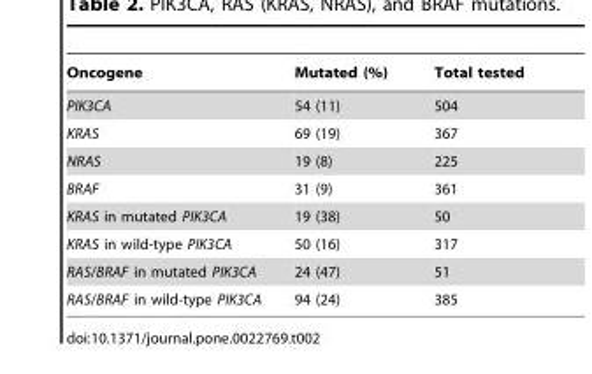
<table><thead><tr><td>Oncogene</td><td>Mutated (%)</td><td>Total tested</td></tr></thead><tbody><tr><td>PIK3CA</td><td>54 (11)</td><td>504</td></tr><tr><td>KRAS</td><td>69 (19)</td><td>367</td></tr><tr><td>NRAS</td><td>19 (8)</td><td>225</td></tr><tr><td>BRAF</td><td>31 (9)</td><td>361</td></tr><tr><td>KRAS in mutated PIK3CA</td><td>19 (38)</td><td>50</td></tr><tr><td>KRAS in wild-type PIK3CA</td><td>50 (16)</td><td>317</td></tr><tr><td>RAS/BRAF in mutated PIK3CA</td><td>24 (47)</td><td>51</td></tr><tr><td>RAS/BRAF in wild-type PIK3CA</td><td>94 (24)</td><td>385</td></tr></tbody></table>